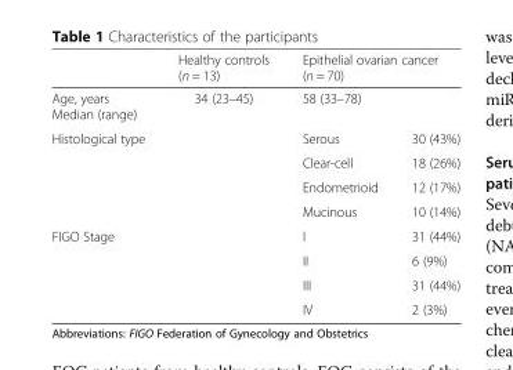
<table><thead><tr><td rowspan="2">Age, years Median (range)</td><td rowspan="2">Healthy controls (n = 13) 34 (23–45)</td><td colspan="2">Epithelial ovarian cancer (n = 70)</td></tr><tr><td>58 (33–78)</td><td></td></tr></thead><tbody><tr><td rowspan="4">Histological type</td><td rowspan="4"></td><td>Serous</td><td>30 (43%)</td></tr><tr><td>Clear-cell</td><td>18 (26%)</td></tr><tr><td>Endometrioid</td><td>12 (17%)</td></tr><tr><td>Mucinous</td><td>10 (14%)</td></tr><tr><td rowspan="4">FIGO Stage</td><td rowspan="4"></td><td>I</td><td>31 (44%)</td></tr><tr><td>II</td><td>6 (9%)</td></tr><tr><td>III</td><td>31 (44%)</td></tr><tr><td>IV</td><td>2 (3%)</td></tr></tbody></table>